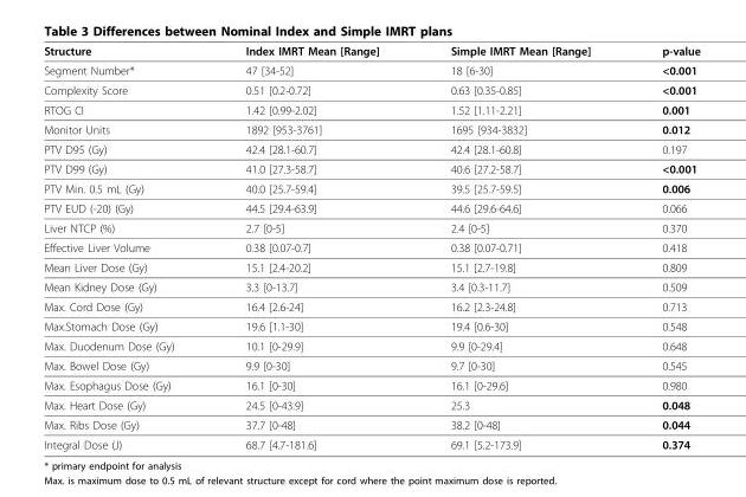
<table><thead><tr><td>Structure</td><td>Index IMRT Mean [Range]</td><td>Simple IMRT Mean [Range]</td><td>p-value</td></tr></thead><tbody><tr><td>Segment Number*</td><td>47 [34-52]</td><td>18 [6-30]</td><td>&lt;0.001</td></tr><tr><td>Complexity Score</td><td>0.51 [0.2-0.72]</td><td>0.63 [0.35-0.85]</td><td>&lt;0.001</td></tr><tr><td>RTOG CI</td><td>1.42 [0.99-2.02]</td><td>1.52 [1.11-2.21]</td><td>0.001</td></tr><tr><td>Monitor Units</td><td>1892 [953-3761]</td><td>1695 [934-3832]</td><td>0.012</td></tr><tr><td>PTV D95 (Gy)</td><td>42.4 [28.1-60.7]</td><td>42.4 [28.1-60.8]</td><td>0.197</td></tr><tr><td>PTV D99 (Gy)</td><td>41.0 [27.3-58.7]</td><td>40.6 [27.2-58.7]</td><td>&lt;0.001</td></tr><tr><td>PTV Min. 0.5 mL (Gy)</td><td>40.0 [25.7-59.4]</td><td>39.5 [25.7-59.5]</td><td>0.006</td></tr><tr><td>PTV EUD (-20) (Gy)</td><td>44.5 [29.4-63.9]</td><td>44.6 [29.6-64.6]</td><td>0.066</td></tr><tr><td>Liver NTCP (%)</td><td>2.7 [0-5]</td><td>2.4 [0-5]</td><td>0.370</td></tr><tr><td>Effective Liver Volume</td><td>0.38 [0.07-0.7]</td><td>0.38 [0.07-0.71]</td><td>0.418</td></tr><tr><td>Mean Liver Dose (Gy)</td><td>15.1 [2.4-20.2]</td><td>15.1 [2.7-19.8]</td><td>0.809</td></tr><tr><td>Mean Kidney Dose (Gy)</td><td>3.3 [0-13.7]</td><td>3.4 [0.3-11.7]</td><td>0.509</td></tr><tr><td>Max. Cord Dose (Gy)</td><td>16.4 [2.6-24]</td><td>16.2 [2.3-24.8]</td><td>0.713</td></tr><tr><td>Max.Stomach Dose (Gy)</td><td>19.6 [1.1-30]</td><td>19.4 [0.6-30]</td><td>0.548</td></tr><tr><td>Max. Duodenum Dose (Gy)</td><td>10.1 [0-29.9]</td><td>9.9 [0-29.4]</td><td>0.648</td></tr><tr><td>Max. Bowel Dose (Gy)</td><td>9.9 [0-30]</td><td>9.7 [0-30]</td><td>0.545</td></tr><tr><td>Max. Esophagus Dose (Gy)</td><td>16.1 [0-30]</td><td>16.1 [0-29.6]</td><td>0.980</td></tr><tr><td>Max. Heart Dose (Gy)</td><td>24.5 [0-43.9]</td><td>25.3</td><td>0.048</td></tr><tr><td>Max. Ribs Dose (Gy)</td><td>37.7 [0-48]</td><td>38.2 [0-48]</td><td>0.044</td></tr><tr><td>Integral Dose (J)</td><td>68.7 [4.7-181.6]</td><td>69.1 [5.2-173.9]</td><td>0.374</td></tr></tbody></table>